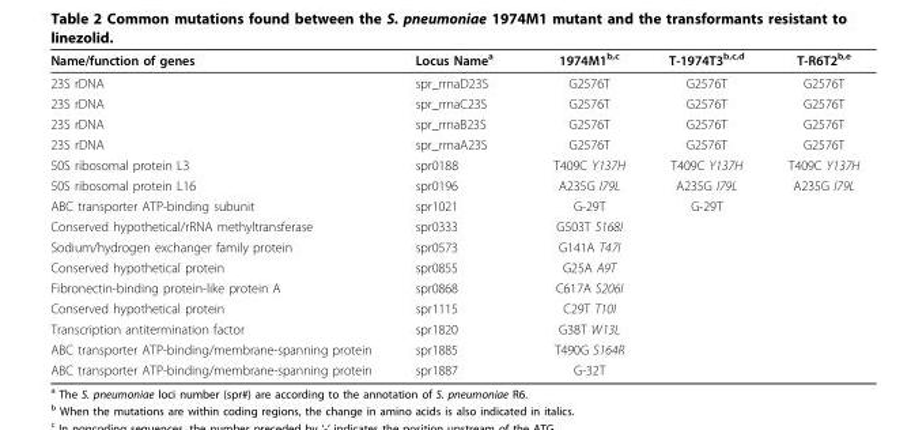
<table><thead><tr><td>Name/function of genes</td><td>Locus Name<sup>a</sup></td><td>1974M1<sup>b,c</sup></td><td>T-1974T3<sup>b,c,d</sup></td><td>T-R6T2<sup>b,e</sup></td></tr></thead><tbody><tr><td>23S rDNA</td><td>spr_rrnaD23S</td><td>G2576T</td><td>G2576T</td><td>G2576T</td></tr><tr><td>23S rDNA</td><td>spr_rrnaC23S</td><td>G2576T</td><td>G2576T</td><td>G2576T</td></tr><tr><td>23S rDNA</td><td>spr_rrnaB23S</td><td>G2576T</td><td>G2576T</td><td>G2576T</td></tr><tr><td>23S rDNA</td><td>spr_rrnaA23S</td><td>G2576T</td><td>G2576T</td><td>G2576T</td></tr><tr><td>50S ribosomal protein L3</td><td>spr0188</td><td>T409C Y137H</td><td>T409C Y137H</td><td>T409C Y137H</td></tr><tr><td>50S ribosomal protein L16</td><td>spr0196</td><td>A235G I79L</td><td>A235G I79L</td><td>A235G I79L</td></tr><tr><td>ABC transporter ATP-binding subunit</td><td>spr1021</td><td>G-29T</td><td>G-29T</td><td></td></tr><tr><td>Conserved hypothetical/rRNA methyltransferase</td><td>spr0333</td><td>G503T S168I</td><td></td><td></td></tr><tr><td>Sodium/hydrogen exchanger family protein</td><td>spr0573</td><td>G141A T47I</td><td></td><td></td></tr><tr><td>Conserved hypothetical protein</td><td>spr0855</td><td>G25A A9T</td><td></td><td></td></tr><tr><td>Fibronectin-binding protein-like protein A</td><td>spr0868</td><td>C617A S206I</td><td></td><td></td></tr><tr><td>Conserved hypothetical protein</td><td>spr1115</td><td>C29T T10I</td><td></td><td></td></tr><tr><td>Transcription antitermination factor</td><td>spr1820</td><td>G38T W13L</td><td></td><td></td></tr><tr><td>ABC transporter ATP-binding/membrane-spanning protein</td><td>spr1885</td><td>T490G S164R</td><td></td><td></td></tr><tr><td>ABC transporter ATP-binding/membrane-spanning protein</td><td>spr1887</td><td>G-32T</td><td></td><td></td></tr></tbody></table>